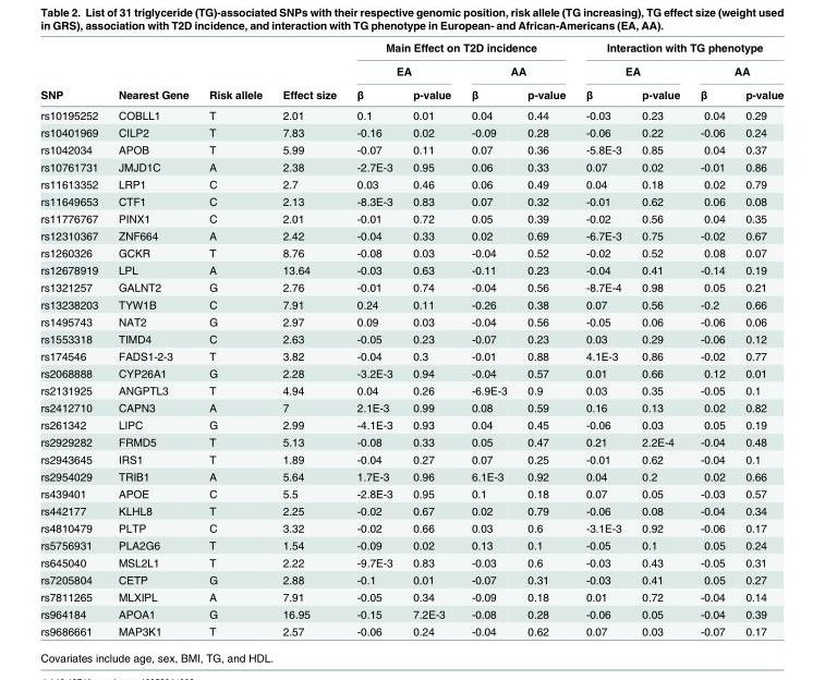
<table><thead><tr><td rowspan="3">SNP</td><td rowspan="3">Nearest Gene</td><td rowspan="3">Risk allele</td><td rowspan="3">Effect size</td><td colspan="4">Main Effect on T2D incidence</td><td colspan="4">Interaction with TG phenotype</td></tr><tr><td colspan="2">EA</td><td colspan="2">AA</td><td colspan="2">EA</td><td colspan="2">AA</td></tr><tr><td>β</td><td>p-value</td><td>β</td><td>p-value</td><td>β</td><td>p-value</td><td>β</td><td>p-value</td></tr></thead><tbody><tr><td>rs10195252</td><td>COBLL1</td><td>T</td><td>2.01</td><td>0.1</td><td>0.01</td><td>0.04</td><td>0.44</td><td>-0.03</td><td>0.23</td><td>0.04</td><td>0.29</td></tr><tr><td>rs10401969</td><td>CILP2</td><td>T</td><td>7.83</td><td>-0.16</td><td>0.02</td><td>-0.09</td><td>0.28</td><td>-0.06</td><td>0.22</td><td>-0.06</td><td>0.24</td></tr><tr><td>rs1042034</td><td>APOB</td><td>T</td><td>5.99</td><td>-0.07</td><td>0.11</td><td>0.07</td><td>0.36</td><td>-5.8E-3</td><td>0.85</td><td>0.04</td><td>0.37</td></tr><tr><td>rs10761731</td><td>JMJD1C</td><td>A</td><td>2.38</td><td>-2.7E-3</td><td>0.95</td><td>0.06</td><td>0.33</td><td>0.07</td><td>0.02</td><td>-0.01</td><td>0.86</td></tr><tr><td>rs11613352</td><td>LRP1</td><td>C</td><td>2.7</td><td>0.03</td><td>0.46</td><td>0.06</td><td>0.49</td><td>0.04</td><td>0.18</td><td>0.02</td><td>0.79</td></tr><tr><td>rs11649653</td><td>CTF1</td><td>C</td><td>2.13</td><td>-8.3E-3</td><td>0.83</td><td>0.07</td><td>0.32</td><td>-0.01</td><td>0.62</td><td>0.06</td><td>0.08</td></tr><tr><td>rs11776767</td><td>PINX1</td><td>C</td><td>2.01</td><td>-0.01</td><td>0.72</td><td>0.05</td><td>0.39</td><td>-0.02</td><td>0.56</td><td>0.04</td><td>0.35</td></tr><tr><td>rs12310367</td><td>ZNF664</td><td>A</td><td>2.42</td><td>-0.04</td><td>0.33</td><td>0.02</td><td>0.69</td><td>-6.7E-3</td><td>0.75</td><td>-0.02</td><td>0.67</td></tr><tr><td>rs1260326</td><td>GCKR</td><td>T</td><td>8.76</td><td>-0.08</td><td>0.03</td><td>-0.04</td><td>0.52</td><td>-0.02</td><td>0.52</td><td>0.08</td><td>0.07</td></tr><tr><td>rs12678919</td><td>LPL</td><td>A</td><td>13.64</td><td>-0.03</td><td>0.63</td><td>-0.11</td><td>0.23</td><td>-0.04</td><td>0.41</td><td>-0.14</td><td>0.19</td></tr><tr><td>rs1321257</td><td>GALNT2</td><td>G</td><td>2.76</td><td>-0.01</td><td>0.74</td><td>-0.04</td><td>0.56</td><td>-8.7E-4</td><td>0.98</td><td>0.05</td><td>0.21</td></tr><tr><td>rs13238203</td><td>TYW1B</td><td>C</td><td>7.91</td><td>0.24</td><td>0.11</td><td>-0.26</td><td>0.38</td><td>0.07</td><td>0.56</td><td>-0.2</td><td>0.66</td></tr><tr><td>rs1495743</td><td>NAT2</td><td>G</td><td>2.97</td><td>0.09</td><td>0.03</td><td>-0.04</td><td>0.56</td><td>-0.05</td><td>0.06</td><td>-0.06</td><td>0.06</td></tr><tr><td>rs1553318</td><td>TIMD4</td><td>C</td><td>2.63</td><td>-0.05</td><td>0.23</td><td>-0.07</td><td>0.23</td><td>0.03</td><td>0.29</td><td>-0.06</td><td>0.12</td></tr><tr><td>rs174546</td><td>FADS1-2-3</td><td>T</td><td>3.82</td><td>-0.04</td><td>0.3</td><td>-0.01</td><td>0.88</td><td>4.1E-3</td><td>0.86</td><td>-0.02</td><td>0.77</td></tr><tr><td>rs2068888</td><td>CYP26A1</td><td>G</td><td>2.28</td><td>-3.2E-3</td><td>0.94</td><td>-0.04</td><td>0.57</td><td>0.01</td><td>0.66</td><td>0.12</td><td>0.01</td></tr><tr><td>rs2131925</td><td>ANGPTL3</td><td>T</td><td>4.94</td><td>0.04</td><td>0.26</td><td>-6.9E-3</td><td>0.9</td><td>0.03</td><td>0.35</td><td>-0.05</td><td>0.1</td></tr><tr><td>rs2412710</td><td>CAPN3</td><td>A</td><td>7</td><td>2.1E-3</td><td>0.99</td><td>0.08</td><td>0.59</td><td>0.16</td><td>0.13</td><td>0.02</td><td>0.82</td></tr><tr><td>rs261342</td><td>LIPC</td><td>G</td><td>2.99</td><td>-4.1E-3</td><td>0.93</td><td>0.04</td><td>0.45</td><td>-0.06</td><td>0.03</td><td>0.05</td><td>0.19</td></tr><tr><td>rs2929282</td><td>FRMD5</td><td>T</td><td>5.13</td><td>-0.08</td><td>0.33</td><td>0.05</td><td>0.47</td><td>0.21</td><td>2.2E-4</td><td>-0.04</td><td>0.48</td></tr><tr><td>rs2943645</td><td>IRS1</td><td>T</td><td>1.89</td><td>-0.04</td><td>0.27</td><td>0.07</td><td>0.25</td><td>-0.01</td><td>0.62</td><td>-0.04</td><td>0.1</td></tr><tr><td>rs2954029</td><td>TRIB1</td><td>A</td><td>5.64</td><td>1.7E-3</td><td>0.96</td><td>6.1E-3</td><td>0.92</td><td>0.04</td><td>0.2</td><td>0.02</td><td>0.66</td></tr><tr><td>rs439401</td><td>APOE</td><td>C</td><td>5.5</td><td>-2.8E-3</td><td>0.95</td><td>0.1</td><td>0.18</td><td>0.07</td><td>0.05</td><td>-0.03</td><td>0.57</td></tr><tr><td>rs442177</td><td>KLHL8</td><td>T</td><td>2.25</td><td>-0.02</td><td>0.67</td><td>0.02</td><td>0.79</td><td>-0.06</td><td>0.08</td><td>-0.04</td><td>0.34</td></tr><tr><td>rs4810479</td><td>PLTP</td><td>C</td><td>3.32</td><td>-0.02</td><td>0.66</td><td>0.03</td><td>0.6</td><td>-3.1E-3</td><td>0.92</td><td>-0.06</td><td>0.17</td></tr><tr><td>rs5756931</td><td>PLA2G6</td><td>T</td><td>1.54</td><td>-0.09</td><td>0.02</td><td>0.13</td><td>0.1</td><td>-0.05</td><td>0.1</td><td>0.05</td><td>0.24</td></tr><tr><td>rs645040</td><td>MSL2L1</td><td>T</td><td>2.22</td><td>-9.7E-3</td><td>0.83</td><td>-0.03</td><td>0.6</td><td>-0.03</td><td>0.43</td><td>-0.05</td><td>0.31</td></tr><tr><td>rs7205804</td><td>CETP</td><td>G</td><td>2.88</td><td>-0.1</td><td>0.01</td><td>-0.07</td><td>0.31</td><td>-0.03</td><td>0.41</td><td>0.05</td><td>0.27</td></tr><tr><td>rs7811265</td><td>MLXIPL</td><td>A</td><td>7.91</td><td>-0.05</td><td>0.34</td><td>-0.09</td><td>0.18</td><td>0.01</td><td>0.72</td><td>-0.04</td><td>0.14</td></tr><tr><td>rs964184</td><td>APOA1</td><td>G</td><td>16.95</td><td>-0.15</td><td>7.2E-3</td><td>-0.08</td><td>0.28</td><td>-0.06</td><td>0.05</td><td>-0.04</td><td>0.39</td></tr><tr><td>rs9686661</td><td>MAP3K1</td><td>T</td><td>2.57</td><td>-0.06</td><td>0.24</td><td>-0.04</td><td>0.62</td><td>0.07</td><td>0.03</td><td>-0.07</td><td>0.17</td></tr></tbody></table>